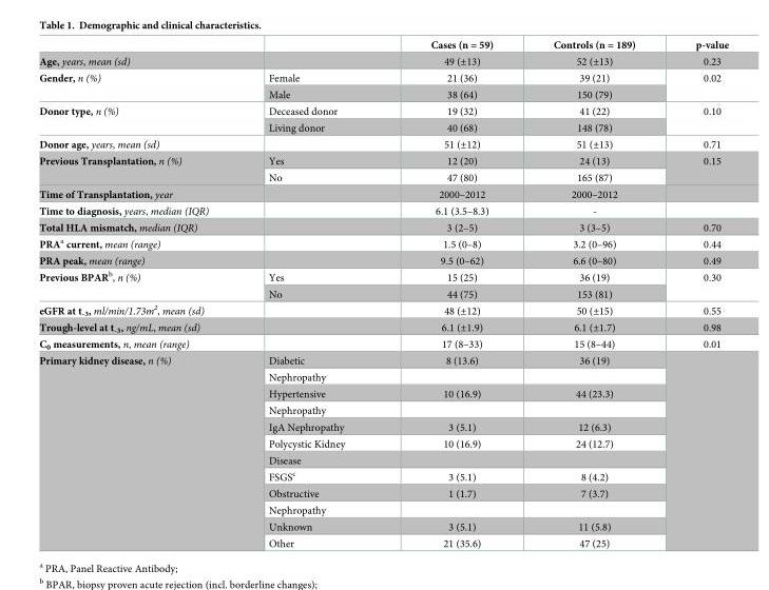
<table><thead><tr><td></td><td></td><td>Cases (n = 59)</td><td>Controls (n = 189)</td><td>p-value</td></tr></thead><tbody><tr><td>Age, years, mean (sd)</td><td></td><td>49 (±13)</td><td>52 (±13)</td><td>0.23</td></tr><tr><td rowspan="2">Gender, n (%)</td><td>Female</td><td>21 (36)</td><td>39 (21)</td><td rowspan="2">0.02</td></tr><tr><td>Male</td><td>38 (64)</td><td>150 (79)</td></tr><tr><td rowspan="2">Donor type, n (%)</td><td>Deceased donor</td><td>19 (32)</td><td>41 (22)</td><td rowspan="2">0.10</td></tr><tr><td>Living donor</td><td>40 (68)</td><td>148 (78)</td></tr><tr><td>Donor age, years, mean (sd)</td><td></td><td>51 (±12)</td><td>51 (±13)</td><td>0.71</td></tr><tr><td rowspan="2">Previous Transplantation, n (%)</td><td>Yes</td><td>12 (20)</td><td>24 (13)</td><td rowspan="2">0.15</td></tr><tr><td>No</td><td>47 (80)</td><td>165 (87)</td></tr><tr><td>Time of Transplantation, year</td><td></td><td>2000–2012</td><td>2000–2012</td><td></td></tr><tr><td>Time to diagnosis, years, median (IQR)</td><td></td><td>6.1 (3.5–8.3)</td><td>-</td><td></td></tr><tr><td>Total HLA mismatch, median (IQR)</td><td></td><td>3 (2–5)</td><td>3 (3–5)</td><td>0.70</td></tr><tr><td>PRA<sup>a</sup> current, mean (range)</td><td></td><td>1.5 (0–8)</td><td>3.2 (0–96)</td><td>0.44</td></tr><tr><td>PRA peak, mean (range)</td><td></td><td>9.5 (0–62)</td><td>6.6 (0–80)</td><td>0.49</td></tr><tr><td rowspan="2">Previous BPAR<sup>b</sup>, n (%)</td><td>Yes</td><td>15 (25)</td><td>36 (19)</td><td rowspan="2">0.30</td></tr><tr><td>No</td><td>44 (75)</td><td>153 (81)</td></tr><tr><td>eGFR at t<sub>-3</sub>, ml/min/1.73m<sup>2</sup>, mean (sd)</td><td></td><td>48 (±12)</td><td>50 (±15)</td><td>0.55</td></tr><tr><td>Trough-level at t<sub>-3</sub>, ng/mL, mean (sd)</td><td></td><td>6.1 (±1.9)</td><td>6.1 (±1.7)</td><td>0.98</td></tr><tr><td>C<sub>0</sub> measurements, n, mean (range)</td><td></td><td>17 (8–33)</td><td>15 (8–44)</td><td>0.01</td></tr><tr><td rowspan="12">Primary kidney disease, n (%)</td><td>Diabetic</td><td>8 (13.6)</td><td>36 (19)</td><td rowspan="12"></td></tr><tr><td>Nephropathy</td><td></td><td></td></tr><tr><td>Hypertensive</td><td>10 (16.9)</td><td>44 (23.3)</td></tr><tr><td>Nephropathy</td><td></td><td></td></tr><tr><td>IgA Nephropathy</td><td>3 (5.1)</td><td>12 (6.3)</td></tr><tr><td>Polycystic Kidney</td><td>10 (16.9)</td><td>24 (12.7)</td></tr><tr><td>Disease</td><td></td><td></td></tr><tr><td>FSGS<sup>c</sup></td><td>3 (5.1)</td><td>8 (4.2)</td></tr><tr><td>Obstructive</td><td>1 (1.7)</td><td>7 (3.7)</td></tr><tr><td>Nephropathy</td><td></td><td></td></tr><tr><td>Unknown</td><td>3 (5.1)</td><td>11 (5.8)</td></tr><tr><td>Other</td><td>21 (35.6)</td><td>47 (25)</td></tr></tbody></table>